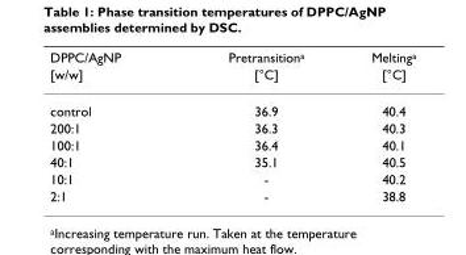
<table><thead><tr><td rowspan="2">DPPC/AgNP [w/w]</td><td rowspan="2">Pretransition<sup>a</sup> [°C]</td><td rowspan="2">Melting<sup>a</sup> [°C]</td></tr><tr></tr></thead><tbody><tr><td>control</td><td>36.9</td><td>40.4</td></tr><tr><td>200:1</td><td>36.3</td><td>40.3</td></tr><tr><td>100:1</td><td>36.4</td><td>40.1</td></tr><tr><td>40:1</td><td>35.1</td><td>40.5</td></tr><tr><td>10:1</td><td>-</td><td>40.2</td></tr><tr><td>2:1</td><td>-</td><td>38.8</td></tr></tbody></table>